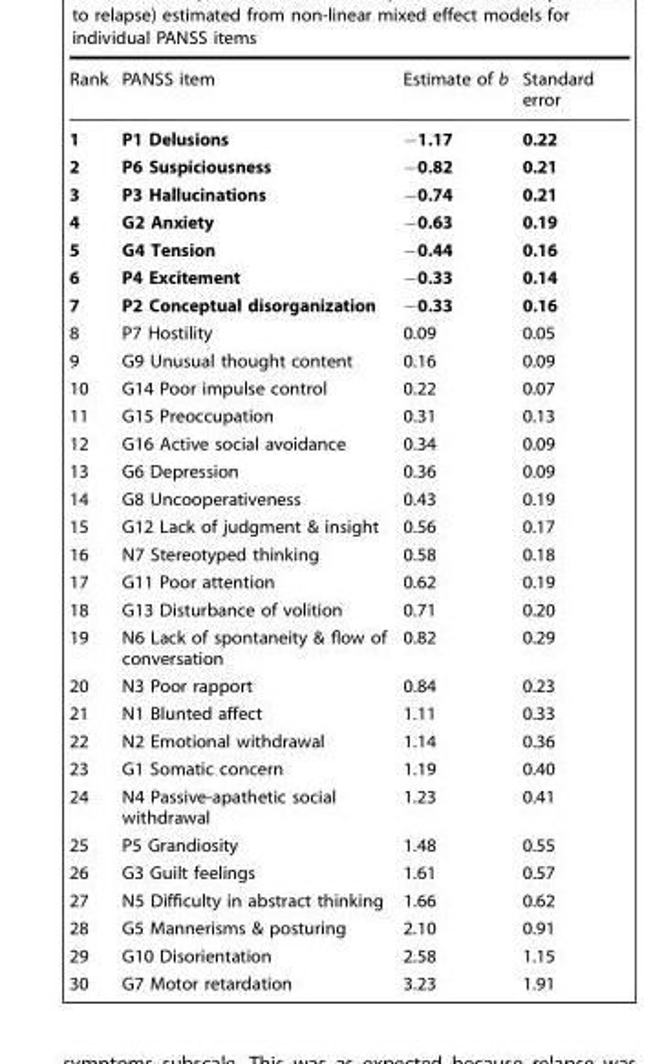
<table><thead><tr><td>Rank</td><td>PANSS item</td><td>Estimate of b</td><td>Standard error</td></tr></thead><tbody><tr><td>1</td><td>P1 Delusions</td><td>−1.17</td><td>0.22</td></tr><tr><td>2</td><td>P6 Suspiciousness</td><td>−0.82</td><td>0.21</td></tr><tr><td>3</td><td>P3 Hallucinations</td><td>−0.74</td><td>0.21</td></tr><tr><td>4</td><td>G2 Anxiety</td><td>−0.63</td><td>0.19</td></tr><tr><td>5</td><td>G4 Tension</td><td>−0.44</td><td>0.16</td></tr><tr><td>6</td><td>P4 Excitement</td><td>−0.33</td><td>0.14</td></tr><tr><td>7</td><td>P2 Conceptual disorganization</td><td>−0.33</td><td>0.16</td></tr><tr><td>8</td><td>P7 Hostility</td><td>0.09</td><td>0.05</td></tr><tr><td>9</td><td>G9 Unusual thought content</td><td>0.16</td><td>0.09</td></tr><tr><td>10</td><td>G14 Poor impulse control</td><td>0.22</td><td>0.07</td></tr><tr><td>11</td><td>G15 Preoccupation</td><td>0.31</td><td>0.13</td></tr><tr><td>12</td><td>G16 Active social avoidance</td><td>0.34</td><td>0.09</td></tr><tr><td>13</td><td>G6 Depression</td><td>0.36</td><td>0.09</td></tr><tr><td>14</td><td>G8 Uncooperativeness</td><td>0.43</td><td>0.19</td></tr><tr><td>15</td><td>G12 Lack of judgment &amp; insight</td><td>0.56</td><td>0.17</td></tr><tr><td>16</td><td>N7 Stereotyped thinking</td><td>0.58</td><td>0.18</td></tr><tr><td>17</td><td>G11 Poor attention</td><td>0.62</td><td>0.19</td></tr><tr><td>18</td><td>G13 Disturbance of volition</td><td>0.71</td><td>0.20</td></tr><tr><td>19</td><td>N6 Lack of spontaneity &amp; flow of conversation</td><td>0.82</td><td>0.29</td></tr><tr><td>20</td><td>N3 Poor rapport</td><td>0.84</td><td>0.23</td></tr><tr><td>21</td><td>N1 Blunted affect</td><td>1.11</td><td>0.33</td></tr><tr><td>22</td><td>N2 Emotional withdrawal</td><td>1.14</td><td>0.36</td></tr><tr><td>23</td><td>G1 Somatic concern</td><td>1.19</td><td>0.40</td></tr><tr><td>24</td><td>N4 Passive-apathetic social withdrawal</td><td>1.23</td><td>0.41</td></tr><tr><td>25</td><td>P5 Grandiosity</td><td>1.48</td><td>0.55</td></tr><tr><td>26</td><td>G3 Guilt feelings</td><td>1.61</td><td>0.57</td></tr><tr><td>27</td><td>N5 Difficulty in abstract thinking</td><td>1.66</td><td>0.62</td></tr><tr><td>28</td><td>G5 Mannerisms &amp; posturing</td><td>2.10</td><td>0.91</td></tr><tr><td>29</td><td>G10 Disorientation</td><td>2.58</td><td>1.15</td></tr><tr><td>30</td><td>G7 Motor retardation</td><td>3.23</td><td>1.91</td></tr></tbody></table>